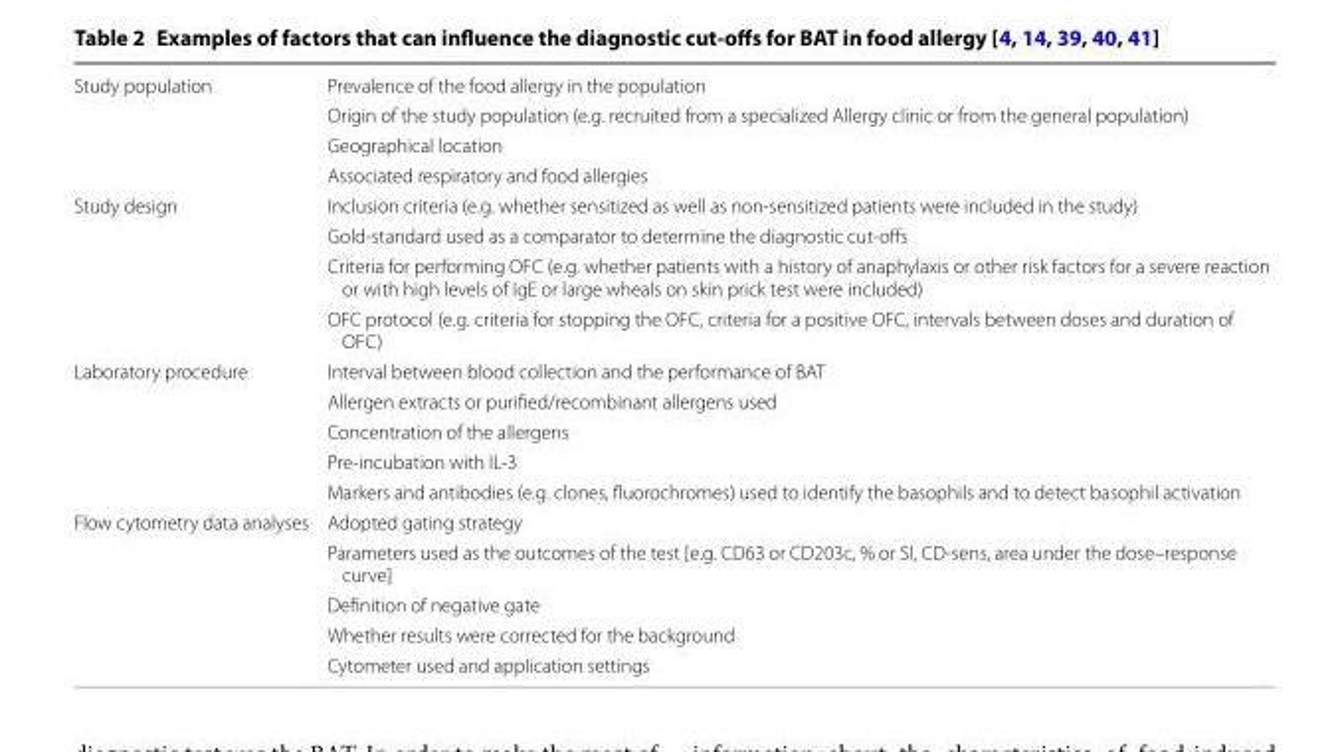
<table><tbody><tr><td rowspan="4">Study population</td><td>Prevalence of the food allergy in the population</td></tr><tr><td>Origin of the study population (e.g. recruited from a specialized Allergy clinic or from the general population)</td></tr><tr><td>Geographical location</td></tr><tr><td>Associated respiratory and food allergies</td></tr><tr><td rowspan="4">Study design</td><td>Inclusion criteria (e.g. whether sensitized as well as non-sensitized patients were included in the study)</td></tr><tr><td>Gold-standard used as a comparator to determine the diagnostic cut-offs</td></tr><tr><td>Criteria for performing OFC (e.g. whether patients with a history of anaphylaxis or other risk factors for a severe reaction or with high levels of IgE or large wheals on skin prick test were included)</td></tr><tr><td>OFC protocol (e.g. criteria for stopping the OFC, criteria for a positive OFC, intervals between doses and duration of OFC)</td></tr><tr><td rowspan="5">Laboratory procedure</td><td>Interval between blood collection and the performance of BAT</td></tr><tr><td>Allergen extracts or purified/recombinant allergens used</td></tr><tr><td>Concentration of the allergens</td></tr><tr><td>Pre-incubation with IL-3</td></tr><tr><td>Markers and antibodies (e.g. clones, fluorochromes) used to identify the basophils and to detect basophil activation</td></tr><tr><td rowspan="5">Flow cytometry data analyses</td><td>Adopted gating strategy</td></tr><tr><td>Parameters used as the outcomes of the test [e.g. CD63 or CD203c, % or SI, CD-sens, area under the dose–response curve]</td></tr><tr><td>Definition of negative gate</td></tr><tr><td>Whether results were corrected for the background</td></tr><tr><td>Cytometer used and application settings</td></tr></tbody></table>